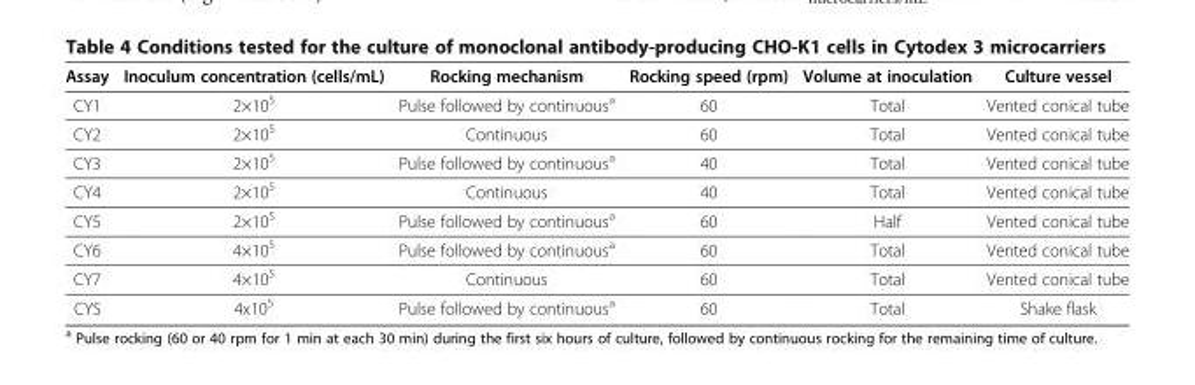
<table><thead><tr><td>Assay</td><td>Inoculum concentration (cells/mL)</td><td>Rocking mechanism</td><td>Rocking speed (rpm)</td><td>Volume at inoculation</td><td>Culture vessel</td></tr></thead><tbody><tr><td>CY1</td><td>2×10<sup>5</sup></td><td>Pulse followed by continuous<sup>a</sup></td><td>60</td><td>Total</td><td>Vented conical tube</td></tr><tr><td>CY2</td><td>2×10<sup>5</sup></td><td>Continuous</td><td>60</td><td>Total</td><td>Vented conical tube</td></tr><tr><td>CY3</td><td>2×10<sup>5</sup></td><td>Pulse followed by continuous<sup>a</sup></td><td>40</td><td>Total</td><td>Vented conical tube</td></tr><tr><td>CY4</td><td>2×10<sup>5</sup></td><td>Continuous</td><td>40</td><td>Total</td><td>Vented conical tube</td></tr><tr><td>CY5</td><td>2×10<sup>5</sup></td><td>Pulse followed by continuous<sup>a</sup></td><td>60</td><td>Half</td><td>Vented conical tube</td></tr><tr><td>CY6</td><td>4×10<sup>5</sup></td><td>Pulse followed by continuous<sup>a</sup></td><td>60</td><td>Total</td><td>Vented conical tube</td></tr><tr><td>CY7</td><td>4×10<sup>5</sup></td><td>Continuous</td><td>60</td><td>Total</td><td>Vented conical tube</td></tr><tr><td>CYS</td><td>4x10<sup>5</sup></td><td>Pulse followed by continuous<sup>a</sup></td><td>60</td><td>Total</td><td>Shake flask</td></tr></tbody></table>